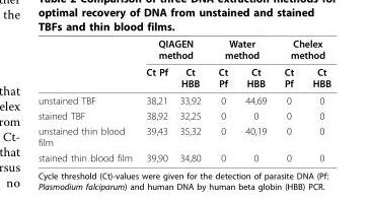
<table><thead><tr><td rowspan="2"></td><td colspan="2">QIAGEN method</td><td colspan="2">Water method</td><td colspan="2">Chelex method</td></tr><tr><td>Ct Pf</td><td>Ct HBB</td><td>Ct Pf</td><td>Ct HBB</td><td>Ct Pf</td><td>Ct HBB</td></tr></thead><tbody><tr><td>unstained TBF</td><td>38,21</td><td>33,92</td><td>0</td><td>44,69</td><td>0</td><td>0</td></tr><tr><td>stained TBF</td><td>38,92</td><td>32,25</td><td>0</td><td>0</td><td>0</td><td>0</td></tr><tr><td>unstained thin blood film</td><td>39,43</td><td>35,32</td><td>0</td><td>40,19</td><td>0</td><td>0</td></tr><tr><td>stained thin blood film</td><td>39,90</td><td>34,80</td><td>0</td><td>0</td><td>0</td><td>0</td></tr></tbody></table>